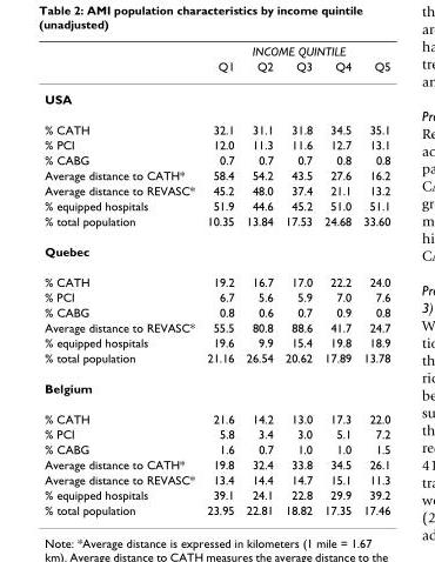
<table><thead><tr><td rowspan="2"></td><td colspan="5">INCOME QUINTILE</td></tr><tr><td>Q1</td><td>Q2</td><td>Q3</td><td>Q4</td><td>Q5</td></tr></thead><tbody><tr><td colspan="6">USA</td></tr><tr><td>% CATH</td><td>32.1</td><td>31.1</td><td>31.8</td><td>34.5</td><td>35.1</td></tr><tr><td>% PCI</td><td>12.0</td><td>11.3</td><td>11.6</td><td>12.7</td><td>13.1</td></tr><tr><td>% CABG</td><td>0.7</td><td>0.7</td><td>0.7</td><td>0.8</td><td>0.8</td></tr><tr><td>Average distance to CATH*</td><td>58.4</td><td>54.2</td><td>43.5</td><td>27.6</td><td>16.2</td></tr><tr><td>Average distance to REVASC*</td><td>45.2</td><td>48.0</td><td>37.4</td><td>21.1</td><td>13.2</td></tr><tr><td>% equipped hospitals</td><td>51.9</td><td>44.6</td><td>45.2</td><td>51.0</td><td>51.1</td></tr><tr><td>% total population</td><td>10.35</td><td>13.84</td><td>17.53</td><td>24.68</td><td>33.60</td></tr><tr><td colspan="6">Quebec</td></tr><tr><td>% CATH</td><td>19.2</td><td>16.7</td><td>17.0</td><td>22.2</td><td>24.0</td></tr><tr><td>% PCI</td><td>6.7</td><td>5.6</td><td>5.9</td><td>7.0</td><td>7.6</td></tr><tr><td>% CABG</td><td>0.8</td><td>0.6</td><td>0.7</td><td>0.9</td><td>0.8</td></tr><tr><td>Average distance to REVASC*</td><td>55.5</td><td>80.8</td><td>88.6</td><td>41.7</td><td>24.7</td></tr><tr><td>% equipped hospitals</td><td>19.6</td><td>9.9</td><td>15.4</td><td>19.8</td><td>18.9</td></tr><tr><td>% total population</td><td>21.16</td><td>26.54</td><td>20.62</td><td>17.89</td><td>13.78</td></tr><tr><td colspan="6">Belgium</td></tr><tr><td>% CATH</td><td>21.6</td><td>14.2</td><td>13.0</td><td>17.3</td><td>22.0</td></tr><tr><td>% PCI</td><td>5.8</td><td>3.4</td><td>3.0</td><td>5.1</td><td>7.2</td></tr><tr><td>% CABG</td><td>1.6</td><td>0.7</td><td>1.0</td><td>1.0</td><td>1.5</td></tr><tr><td>Average distance to CATH*</td><td>19.8</td><td>32.4</td><td>33.8</td><td>34.5</td><td>26.1</td></tr><tr><td>Average distance to REVASC*</td><td>13.4</td><td>14.4</td><td>14.7</td><td>15.1</td><td>11.3</td></tr><tr><td>% equipped hospitals</td><td>39.1</td><td>24.1</td><td>22.8</td><td>29.9</td><td>39.2</td></tr><tr><td>% total population</td><td>23.95</td><td>22.81</td><td>18.82</td><td>17.35</td><td>17.46</td></tr></tbody></table>